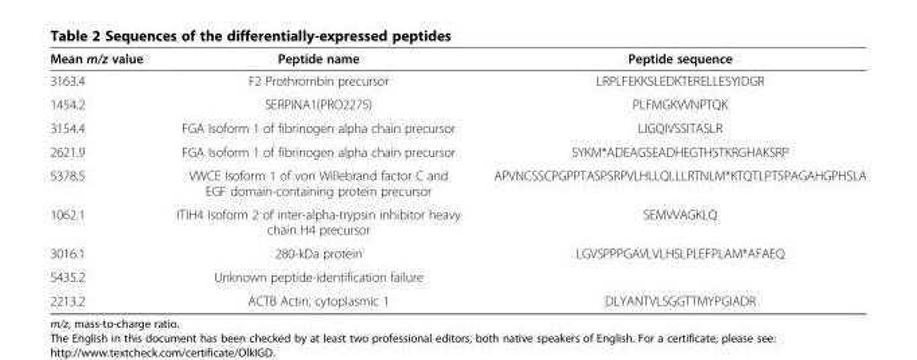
<table><thead><tr><td>Mean m/z value</td><td>Peptide name</td><td>Peptide sequence</td></tr></thead><tbody><tr><td>3163.4</td><td>F2 Prothrombin precursor</td><td>LRPLFEKKSLEDKTERELLESYIDGR</td></tr><tr><td>1454.2</td><td>SERPINA1(PRO2275)</td><td>PLFMGKVVNPTQK</td></tr><tr><td>3154.4</td><td>FGA Isoform 1 of fibrinogen alpha chain precursor</td><td>LIGQIVSSITASLR</td></tr><tr><td>2621.9</td><td>FGA Isoform 1 of fibrinogen alpha chain precursor</td><td>SYKM*ADEAGSEADHEGTHSTKRGHAKSRP</td></tr><tr><td>5378.5</td><td>VWCE Isoform 1 of von Willebrand factor C and EGF domain-containing protein precursor</td><td>APVNCSSCPGPPTASPSRPVLHLLQLLLRTNLM*KTQTLPTSPAGAHGPHSLA</td></tr><tr><td>1062.1</td><td>ITIH4 Isoform 2 of inter-alpha-trypsin inhibitor heavy chain H4 precursor</td><td>SEMVVAGKLQ</td></tr><tr><td>3016.1</td><td>280-kDa protein</td><td>LGVSPPPGAVLVLHSLPLEFPLAM*AFAEQ</td></tr><tr><td>5435.2</td><td>Unknown peptide-identification failure</td><td></td></tr><tr><td>2213.2</td><td>ACTB Actin, cytoplasmic 1</td><td>DLYANTVLSGGTTMYPGIADR</td></tr></tbody></table>